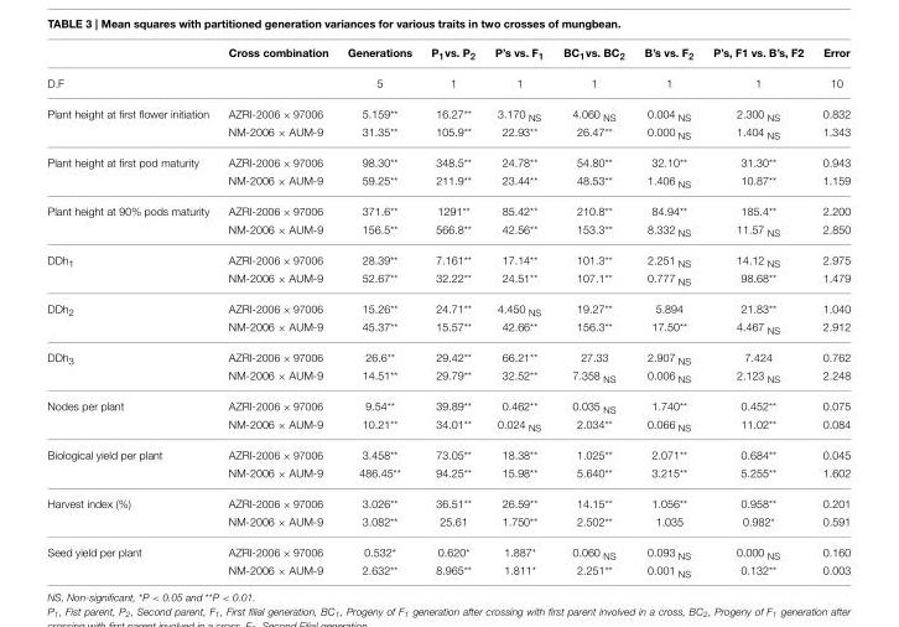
<table><thead><tr><td></td><td>Cross combination</td><td>Generations</td><td>P<sub>1</sub>vs. P<sub>2</sub></td><td>P’s vs. F<sub>1</sub></td><td>BC<sub>1</sub>vs. BC<sub>2</sub></td><td>B’s vs. F<sub>2</sub></td><td>P’s, F1 vs. B’s, F2</td><td>Error</td></tr></thead><tbody><tr><td>D.F</td><td></td><td>5</td><td>1</td><td>1</td><td>1</td><td>1</td><td>1</td><td>10</td></tr><tr><td rowspan="2">Plant height at first flower initiation</td><td>AZRI-2006 × 97006</td><td>5.159**</td><td>16.27**</td><td>3.170 <sub>NS</sub></td><td>4.060 <sub>NS</sub></td><td>0.004 <sub>NS</sub></td><td>2.300 <sub>NS</sub></td><td>0.832</td></tr><tr><td>NM-2006 × AUM-9</td><td>31.35**</td><td>105.9**</td><td>22.93**</td><td>26.47**</td><td>0.000 <sub>NS</sub></td><td>1.404 <sub>NS</sub></td><td>1.343</td></tr><tr><td rowspan="2">Plant height at first pod maturity</td><td>AZRI-2006 × 97006</td><td>98.30**</td><td>348.5**</td><td>24.78**</td><td>54.80**</td><td>32.10**</td><td>31.30**</td><td>0.943</td></tr><tr><td>NM-2006 × AUM-9</td><td>59.25**</td><td>211.9**</td><td>23.44**</td><td>48.53**</td><td>1.406 <sub>NS</sub></td><td>10.87**</td><td>1.159</td></tr><tr><td rowspan="2">Plant height at 90% pods maturity</td><td>AZRI-2006 × 97006</td><td>371.6**</td><td>1291**</td><td>85.42**</td><td>210.8**</td><td>84.94**</td><td>185.4**</td><td>2.200</td></tr><tr><td>NM-2006 × AUM-9</td><td>156.5**</td><td>566.8**</td><td>42.56**</td><td>153.3**</td><td>8.332 <sub>NS</sub></td><td>11.57 <sub>NS</sub></td><td>2.850</td></tr><tr><td rowspan="2">DDh<sub>1</sub></td><td>AZRI-2006 × 97006</td><td>28.39**</td><td>7.161**</td><td>17.14**</td><td>101.3**</td><td>2.251 <sub>NS</sub></td><td>14.12 <sub>NS</sub></td><td>2.975</td></tr><tr><td>NM-2006 × AUM-9</td><td>52.67**</td><td>32.22**</td><td>24.51**</td><td>107.1**</td><td>0.777 <sub>NS</sub></td><td>98.68**</td><td>1.479</td></tr><tr><td rowspan="2">DDh<sub>2</sub></td><td>AZRI-2006 × 97006</td><td>15.26**</td><td>24.71**</td><td>4.450 <sub>NS</sub></td><td>19.27**</td><td>5.894</td><td>21.83**</td><td>1.040</td></tr><tr><td>NM-2006 × AUM-9</td><td>45.37**</td><td>15.57**</td><td>42.66**</td><td>156.3**</td><td>17.50**</td><td>4.467 <sub>NS</sub></td><td>2.912</td></tr><tr><td rowspan="2">DDh<sub>3</sub></td><td>AZRI-2006 × 97006</td><td>26.6**</td><td>29.42**</td><td>66.21**</td><td>27.33</td><td>2.907 <sub>NS</sub></td><td>7.424</td><td>0.762</td></tr><tr><td>NM-2006 × AUM-9</td><td>14.51**</td><td>29.79**</td><td>32.52**</td><td>7.358 <sub>NS</sub></td><td>0.006 <sub>NS</sub></td><td>2.123 <sub>NS</sub></td><td>2.248</td></tr><tr><td rowspan="2">Nodes per plant</td><td>AZRI-2006 × 97006</td><td>9.54**</td><td>39.89**</td><td>0.462**</td><td>0.035 <sub>NS</sub></td><td>1.740**</td><td>0.452**</td><td>0.075</td></tr><tr><td>NM-2006 × AUM-9</td><td>10.21**</td><td>34.01**</td><td>0.024 <sub>NS</sub></td><td>2.034**</td><td>0.066 <sub>NS</sub></td><td>11.02**</td><td>0.084</td></tr><tr><td rowspan="2">Biological yield per plant</td><td>AZRI-2006 × 97006</td><td>3.458**</td><td>73.05**</td><td>18.38**</td><td>1.025**</td><td>2.071**</td><td>0.684**</td><td>0.045</td></tr><tr><td>NM-2006 × AUM-9</td><td>486.45**</td><td>94.25**</td><td>15.98**</td><td>5.640**</td><td>3.215**</td><td>5.255**</td><td>1.602</td></tr><tr><td rowspan="2">Harvest index (%)</td><td>AZRI-2006 × 97006</td><td>3.026**</td><td>36.51**</td><td>26.59**</td><td>14.15**</td><td>1.056**</td><td>0.958**</td><td>0.201</td></tr><tr><td>NM-2006 × AUM-9</td><td>3.082**</td><td>25.61</td><td>1.750**</td><td>2.502**</td><td>1.035</td><td>0.982*</td><td>0.591</td></tr><tr><td rowspan="2">Seed yield per plant</td><td>AZRI-2006 × 97006</td><td>0.532*</td><td>0.620*</td><td>1.887*</td><td>0.060 <sub>NS</sub></td><td>0.093 <sub>NS</sub></td><td>0.000 <sub>NS</sub></td><td>0.160</td></tr><tr><td>NM-2006 × AUM-9</td><td>2.632**</td><td>8.965**</td><td>1.811*</td><td>2.251**</td><td>0.001 <sub>NS</sub></td><td>0.132**</td><td>0.003</td></tr></tbody></table>